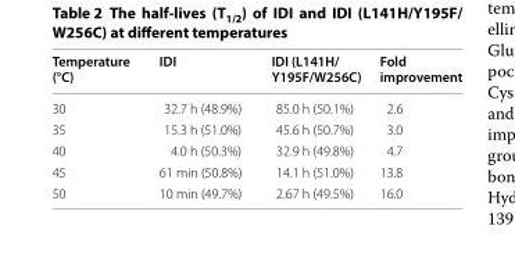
<table><thead><tr><td>Temperature (°C)</td><td>IDI</td><td>IDI (L141H/ Y195F/W256C)</td><td>Fold improvement</td></tr></thead><tbody><tr><td>30</td><td>32.7 h (48.9%)</td><td>85.0 h (50.1%)</td><td>2.6</td></tr><tr><td>35</td><td>15.3 h (51.0%)</td><td>45.6 h (50.7%)</td><td>3.0</td></tr><tr><td>40</td><td>4.0 h (50.3%)</td><td>32.9 h (49.8%)</td><td>4.7</td></tr><tr><td>45</td><td>61 min (50.8%)</td><td>14.1 h (51.0%)</td><td>13.8</td></tr><tr><td>50</td><td>10 min (49.7%)</td><td>2.67 h (49.5%)</td><td>16.0</td></tr></tbody></table>